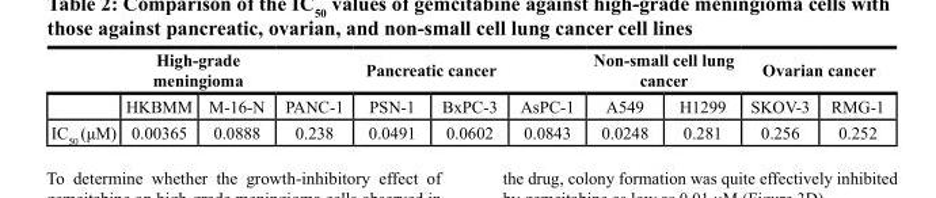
<table><thead><tr><td rowspan="2"></td><td colspan="2">High-grade meningioma</td><td colspan="4">Pancreatic cancer</td><td colspan="2">Non-small cell lung cancer</td><td colspan="2">Ovarian cancer</td></tr><tr><td>HKBMM</td><td>M-16-N</td><td>PANC-1</td><td>PSN-1</td><td>BxPC-3</td><td>AsPC-1</td><td>A549</td><td>H1299</td><td>SKOV-3</td><td>RMG-1</td></tr></thead><tbody><tr><td>IC<sub>50</sub> (μM)</td><td>0.00365</td><td>0.0888</td><td>0.238</td><td>0.0491</td><td>0.0602</td><td>0.0843</td><td>0.0248</td><td>0.281</td><td>0.256</td><td>0.252</td></tr></tbody></table>